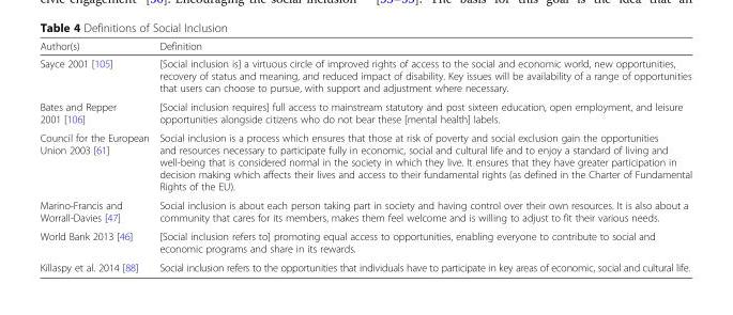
<table><thead><tr><td>Author(s)</td><td>Definition</td></tr></thead><tbody><tr><td>Sayce 2001 [105]</td><td>[Social inclusion is] a virtuous circle of improved rights of access to the social and economic world, new opportunities, recovery of status and meaning, and reduced impact of disability. Key issues will be availability of a range of opportunities that users can choose to pursue, with support and adjustment where necessary.</td></tr><tr><td>Bates and Repper 2001 [106]</td><td>[Social inclusion requires] full access to mainstream statutory and post sixteen education, open employment, and leisure opportunities alongside citizens who do not bear these [mental health] labels.</td></tr><tr><td>Council for the European Union 2003 [61]</td><td>Social inclusion is a process which ensures that those at risk of poverty and social exclusion gain the opportunities and resources necessary to participate fully in economic, social and cultural life and to enjoy a standard of living and well-being that is considered normal in the society in which they live. It ensures that they have greater participation in decision making which affects their lives and access to their fundamental rights (as defined in the Charter of Fundamental Rights of the EU).</td></tr><tr><td>Marino-Francis and Worrall-Davies [47]</td><td>Social inclusion is about each person taking part in society and having control over their own resources. It is also about a community that cares for its members, makes them feel welcome and is willing to adjust to fit their various needs.</td></tr><tr><td>World Bank 2013 [46]</td><td>[Social inclusion refers to] promoting equal access to opportunities, enabling everyone to contribute to social and economic programs and share in its rewards.</td></tr><tr><td>Killaspy et al. 2014 [88]</td><td>Social inclusion refers to the opportunities that individuals have to participate in key areas of economic, social and cultural life.</td></tr></tbody></table>